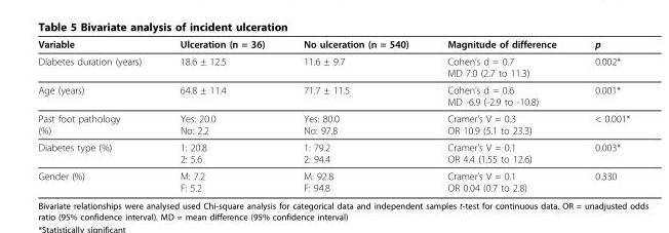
<table><thead><tr><td>Variable</td><td>Ulceration (n = 36)</td><td>No ulceration (n = 540)</td><td>Magnitude of difference</td><td>p</td></tr></thead><tbody><tr><td>Diabetes duration (years)</td><td>18.6 ± 12.5</td><td>11.6 ± 9.7</td><td>Cohen’s d = 0.7 MD 7.0 (2.7 to 11.3)</td><td>0.002*</td></tr><tr><td>Age (years)</td><td>64.8 ± 11.4</td><td>71.7 ± 11.5</td><td>Cohen’s d = 0.6 MD -6.9 (-2.9 to -10.8)</td><td>0.001*</td></tr><tr><td>Past foot pathology (%)</td><td>Yes: 20.0 No: 2.2</td><td>Yes: 80.0 No: 97.8</td><td>Cramer’s V = 0.3 OR 10.9 (5.1 to 23.3)</td><td>&lt; 0.001*</td></tr><tr><td>Diabetes type (%)</td><td>1: 20.8 2: 5.6</td><td>1: 79.2 2: 94.4</td><td>Cramer’s V = 0.1 OR 4.4 (1.55 to 12.6)</td><td>0.003*</td></tr><tr><td>Gender (%)</td><td>M: 7.2 F: 5.2</td><td>M: 92.8 F: 94.8</td><td>Cramer’s V = 0.1 OR 0.04 (0.7 to 2.8)</td><td>0.330</td></tr></tbody></table>